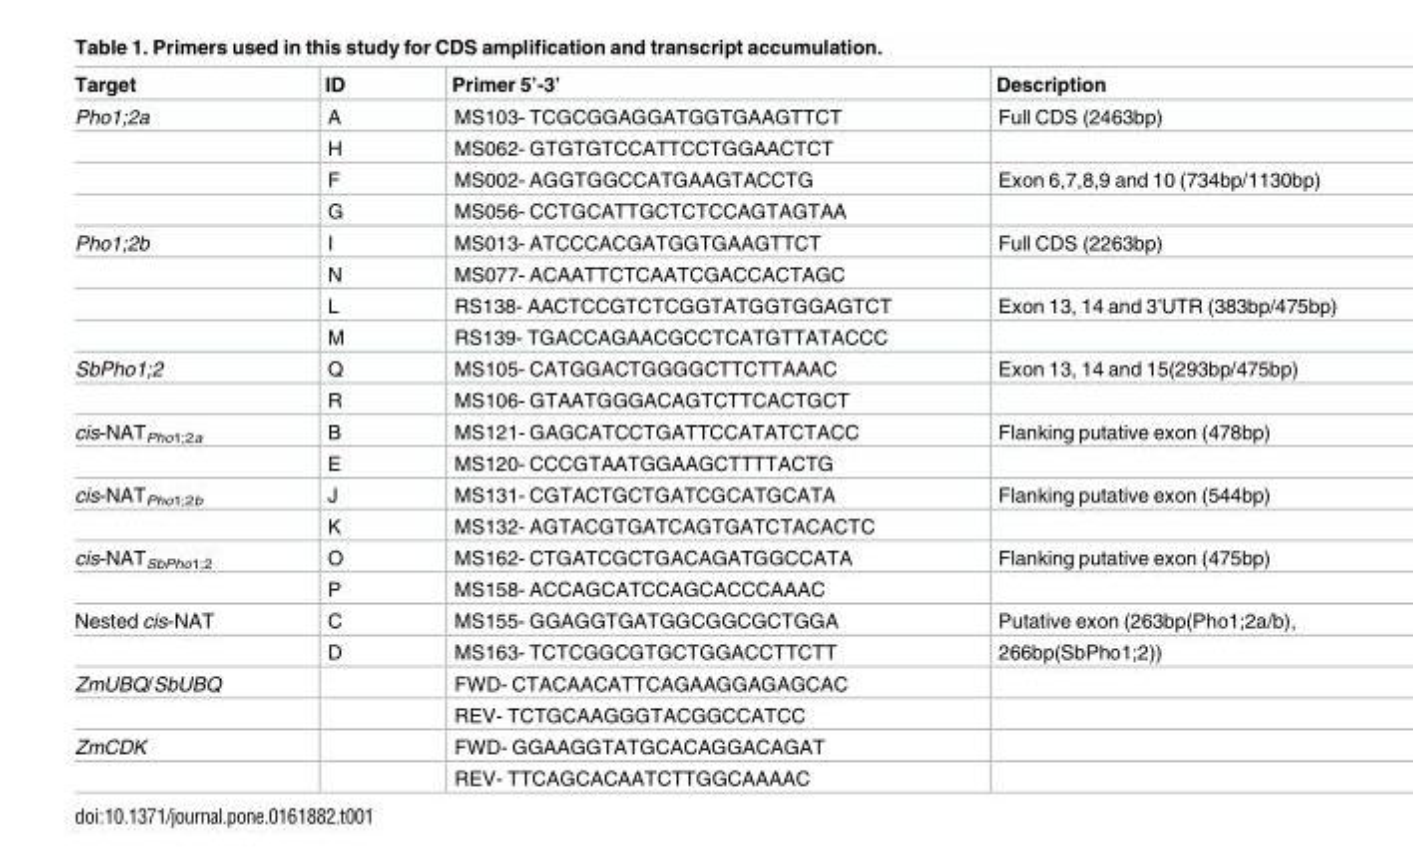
<table><thead><tr><td>Target</td><td>ID</td><td>Primer 5’-3’</td><td>Description</td></tr></thead><tbody><tr><td rowspan="4">Pho1;2a</td><td>A</td><td>MS103- TCGCGGAGGATGGTGAAGTTCT</td><td>Full CDS (2463bp)</td></tr><tr><td>H</td><td>MS062- GTGTGTCCATTCCTGGAACTCT</td><td></td></tr><tr><td>F</td><td>MS002- AGGTGGCCATGAAGTACCTG</td><td>Exon 6,7,8,9 and 10 (734bp/1130bp)</td></tr><tr><td>G</td><td>MS056- CCTGCATTGCTCTCCAGTAGTAA</td><td></td></tr><tr><td rowspan="4">Pho1;2b</td><td>I</td><td>MS013- ATCCCACGATGGTGAAGTTCT</td><td>Full CDS (2263bp)</td></tr><tr><td>N</td><td>MS077- ACAATTCTCAATCGACCACTAGC</td><td></td></tr><tr><td>L</td><td>RS138- AACTCCGTCTCGGTATGGTGGAGTCT</td><td>Exon 13, 14 and 3’UTR (383bp/475bp)</td></tr><tr><td>M</td><td>RS139- TGACCAGAACGCCTCATGTTATACCC</td><td></td></tr><tr><td rowspan="2">SbPho1;2</td><td>Q</td><td>MS105- CATGGACTGGGGCTTCTTAAAC</td><td>Exon 13, 14 and 15(293bp/475bp)</td></tr><tr><td>R</td><td>MS106- GTAATGGGACAGTCTTCACTGCT</td><td></td></tr><tr><td rowspan="2">cis-NAT<sub>Pho1;2a</sub></td><td>B</td><td>MS121- GAGCATCCTGATTCCATATCTACC</td><td>Flanking putative exon (478bp)</td></tr><tr><td>E</td><td>MS120- CCCGTAATGGAAGCTTTTACTG</td><td></td></tr><tr><td rowspan="2">cis-NAT<sub>Pho1;2b</sub></td><td>J</td><td>MS131- CGTACTGCTGATCGCATGCATA</td><td>Flanking putative exon (544bp)</td></tr><tr><td>K</td><td>MS132- AGTACGTGATCAGTGATCTACACTC</td><td></td></tr><tr><td rowspan="2">cis-NAT<sub>SbPho1;2</sub></td><td>O</td><td>MS162- CTGATCGCTGACAGATGGCCATA</td><td>Flanking putative exon (475bp)</td></tr><tr><td>P</td><td>MS158- ACCAGCATCCAGCACCCAAAC</td><td></td></tr><tr><td rowspan="2">Nested cis-NAT</td><td>C</td><td>MS155- GGAGGTGATGGCGGCGCTGGA</td><td>Putative exon (263bp(Pho1;2a/b),</td></tr><tr><td>D</td><td>MS163- TCTCGGCGTGCTGGACCTTCTT</td><td>266bp(SbPho1;2))</td></tr><tr><td rowspan="2">ZmUBQ/SbUBQ</td><td></td><td>FWD- CTACAACATTCAGAAGGAGAGCAC</td><td></td></tr><tr><td></td><td>REV- TCTGCAAGGGTACGGCCATCC</td><td></td></tr><tr><td rowspan="2">ZmCDK</td><td></td><td>FWD- GGAAGGTATGCACAGGACAGAT</td><td></td></tr><tr><td></td><td>REV- TTCAGCACAATCTTGGCAAAAC</td><td></td></tr></tbody></table>